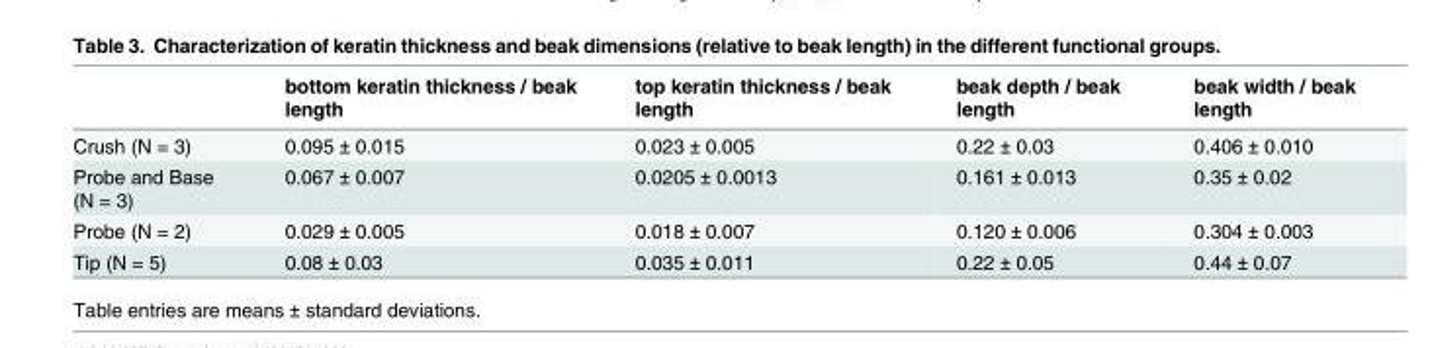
<table><thead><tr><td></td><td>bottom keratin thickness / beak length</td><td>top keratin thickness / beak length</td><td>beak depth / beak length</td><td>beak width / beak length</td></tr></thead><tbody><tr><td>Crush (N = 3)</td><td>0.095 ± 0.015</td><td>0.023 ± 0.005</td><td>0.22 ± 0.03</td><td>0.406 ± 0.010</td></tr><tr><td>Probe and Base (N = 3)</td><td>0.067 ± 0.007</td><td>0.0205 ± 0.0013</td><td>0.161 ± 0.013</td><td>0.35 ± 0.02</td></tr><tr><td>Probe (N = 2)</td><td>0.029 ± 0.005</td><td>0.018 ± 0.007</td><td>0.120 ± 0.006</td><td>0.304 ± 0.003</td></tr><tr><td>Tip (N = 5)</td><td>0.08 ± 0.03</td><td>0.035 ± 0.011</td><td>0.22 ± 0.05</td><td>0.44 ± 0.07</td></tr></tbody></table>